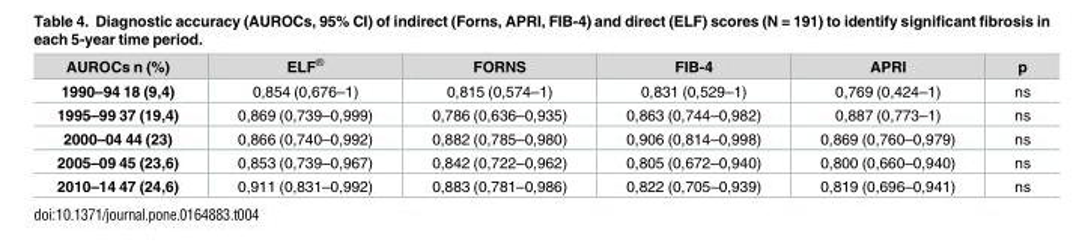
<table><thead><tr><td>AUROCs n (%)</td><td>ELF<sup>®</sup></td><td>FORNS</td><td>FIB-4</td><td>APRI</td><td>p</td></tr></thead><tbody><tr><td>1990–94 18 (9,4)</td><td>0,854 (0,676–1)</td><td>0,815 (0,574–1)</td><td>0,831 (0,529–1)</td><td>0,769 (0,424–1)</td><td>ns</td></tr><tr><td>1995–99 37 (19,4)</td><td>0,869 (0,739–0,999)</td><td>0,786 (0,636–0,935)</td><td>0,863 (0,744–0,982)</td><td>0,887 (0,773–1)</td><td>ns</td></tr><tr><td>2000–04 44 (23)</td><td>0,866 (0,740–0,992)</td><td>0,882 (0,785–0,980)</td><td>0,906 (0,814–0,998)</td><td>0,869 (0,760–0,979)</td><td>ns</td></tr><tr><td>2005–09 45 (23,6)</td><td>0,853 (0,739–0,967)</td><td>0,842 (0,722–0,962)</td><td>0,805 (0,672–0,940)</td><td>0,800 (0,660–0,940)</td><td>ns</td></tr><tr><td>2010–14 47 (24,6)</td><td>0,911 (0,831–0,992)</td><td>0,883 (0,781–0,986)</td><td>0,822 (0,705–0,939)</td><td>0,819 (0,696–0,941)</td><td>ns</td></tr></tbody></table>